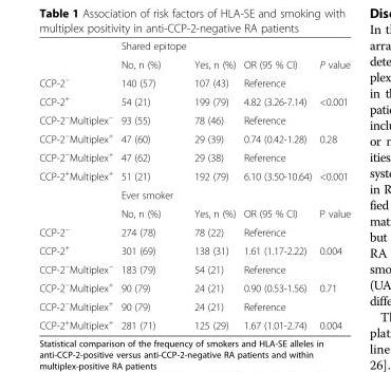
<table><thead><tr><td></td><td>Shared epitope</td><td></td><td></td><td></td></tr></thead><tbody><tr><td></td><td>No, n (%)</td><td>Yes, n (%)</td><td>OR (95 % CI)</td><td>P value</td></tr><tr><td>CCP-2<sup>−</sup></td><td>140 (57)</td><td>107 (43)</td><td>Reference</td><td></td></tr><tr><td>CCP-2<sup>+</sup></td><td>54 (21)</td><td>199 (79)</td><td>4.82 (3.26-7.14)</td><td>&lt;0.001</td></tr><tr><td>CCP-2<sup>−</sup>Multiplex<sup>−</sup></td><td>93 (55)</td><td>78 (46)</td><td>Reference</td><td></td></tr><tr><td>CCP-2<sup>−</sup>Multiplex<sup>+</sup></td><td>47 (60)</td><td>29 (39)</td><td>0.74 (0.42-1.28)</td><td>0.28</td></tr><tr><td>CCP-2<sup>−</sup>Multiplex<sup>+</sup></td><td>47 (62)</td><td>29 (38)</td><td>Reference</td><td></td></tr><tr><td rowspan="3">CCP-2<sup>+</sup>Multiplex<sup>+</sup></td><td>51 (21)</td><td>192 (79)</td><td>6.10 (3.50-10.64)</td><td>&lt;0.001</td></tr><tr><td>Ever smoker</td><td></td><td></td><td></td></tr><tr><td>No, n (%)</td><td>Yes, n (%)</td><td>OR (95 % CI)</td><td>P value</td></tr><tr><td>CCP-2<sup>−</sup></td><td>274 (78)</td><td>78 (22)</td><td>Reference</td><td></td></tr><tr><td>CCP-2<sup>+</sup></td><td>301 (69)</td><td>138 (31)</td><td>1.61 (1.17-2.22)</td><td>0.004</td></tr><tr><td>CCP-2<sup>−</sup>Multiplex<sup>−</sup></td><td>183 (79)</td><td>54 (21)</td><td>Reference</td><td></td></tr><tr><td>CCP-2<sup>−</sup>Multiplex<sup>+</sup></td><td>90 (79)</td><td>24 (21)</td><td>0.90 (0.53-1.56)</td><td>0.71</td></tr><tr><td>CCP-2<sup>−</sup>Multiplex<sup>+</sup></td><td>90 (79)</td><td>24 (21)</td><td>Reference</td><td></td></tr><tr><td>CCP-2<sup>+</sup>Multiplex<sup>+</sup></td><td>281 (71)</td><td>125 (29)</td><td>1.67 (1.01-2.74)</td><td>0.004</td></tr></tbody></table>